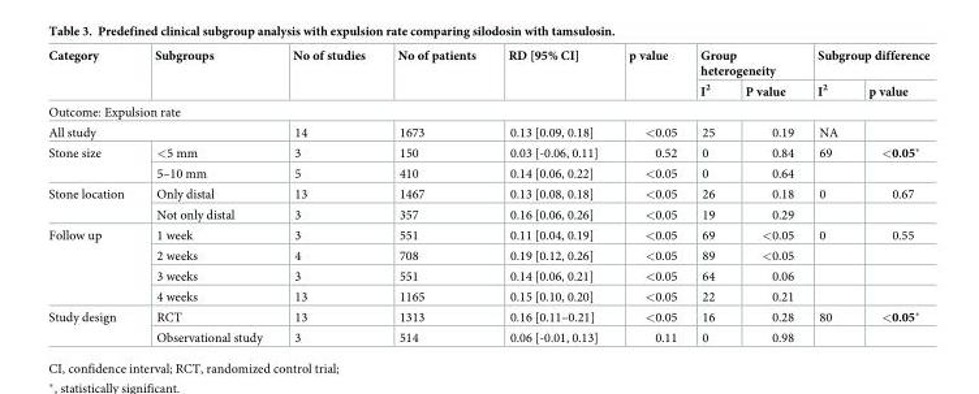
<table><thead><tr><td rowspan="2">Category</td><td rowspan="2">Subgroups</td><td rowspan="2">No of studies</td><td rowspan="2">No of patients</td><td rowspan="2">RD [95% CI]</td><td rowspan="2">p value</td><td colspan="2">Group heterogeneity</td><td colspan="2">Subgroup difference</td></tr><tr><td>I<sup>2</sup></td><td>P value</td><td>I<sup>2</sup></td><td>p value</td></tr></thead><tbody><tr><td colspan="10">Outcome: Expulsion rate</td></tr><tr><td colspan="2">All study</td><td>14</td><td>1673</td><td>0.13 [0.09, 0.18]</td><td>&lt;0.05</td><td>25</td><td>0.19</td><td>NA</td><td></td></tr><tr><td rowspan="2">Stone size</td><td>&lt;5 mm</td><td>3</td><td>150</td><td>0.03 [-0.06, 0.11]</td><td>0.52</td><td>0</td><td>0.84</td><td>69</td><td>&lt;0.05*</td></tr><tr><td>5–10 mm</td><td>5</td><td>410</td><td>0.14 [0.06, 0.22]</td><td>&lt;0.05</td><td>0</td><td>0.64</td><td></td><td></td></tr><tr><td rowspan="2">Stone location</td><td>Only distal</td><td>13</td><td>1467</td><td>0.13 [0.08, 0.18]</td><td>&lt;0.05</td><td>26</td><td>0.18</td><td>0</td><td>0.67</td></tr><tr><td>Not only distal</td><td>3</td><td>357</td><td>0.16 [0.06, 0.26]</td><td>&lt;0.05</td><td>19</td><td>0.29</td><td></td><td></td></tr><tr><td rowspan="4">Follow up</td><td>1 week</td><td>3</td><td>551</td><td>0.11 [0.04, 0.19]</td><td>&lt;0.05</td><td>69</td><td>&lt;0.05</td><td>0</td><td>0.55</td></tr><tr><td>2 weeks</td><td>4</td><td>708</td><td>0.19 [0.12, 0.26]</td><td>&lt;0.05</td><td>89</td><td>&lt;0.05</td><td></td><td></td></tr><tr><td>3 weeks</td><td>3</td><td>551</td><td>0.14 [0.06, 0.21]</td><td>&lt;0.05</td><td>64</td><td>0.06</td><td></td><td></td></tr><tr><td>4 weeks</td><td>13</td><td>1165</td><td>0.15 [0.10, 0.20]</td><td>&lt;0.05</td><td>22</td><td>0.21</td><td></td><td></td></tr><tr><td rowspan="2">Study design</td><td>RCT</td><td>13</td><td>1313</td><td>0.16 [0.11–0.21]</td><td>&lt;0.05</td><td>16</td><td>0.28</td><td>80</td><td>&lt;0.05*</td></tr><tr><td>Observational study</td><td>3</td><td>514</td><td>0.06 [-0.01, 0.13]</td><td>0.11</td><td>0</td><td>0.98</td><td></td><td></td></tr></tbody></table>